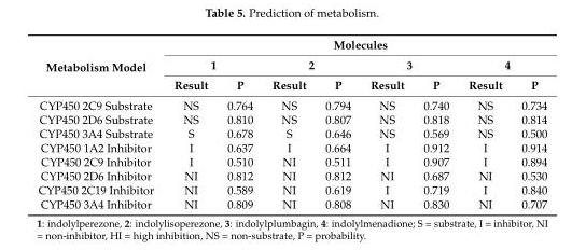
<table><thead><tr><td rowspan="3">Metabolism Model</td><td colspan="8">Molecules</td></tr><tr><td colspan="2">1</td><td colspan="2">2</td><td colspan="2">3</td><td colspan="2">4</td></tr><tr><td>Result</td><td>P</td><td>Result</td><td>P</td><td>Result</td><td>P</td><td>Result</td><td>P</td></tr></thead><tbody><tr><td>CYP450 2C9 Substrate</td><td>NS</td><td>0.764</td><td>NS</td><td>0.794</td><td>NS</td><td>0.740</td><td>NS</td><td>0.734</td></tr><tr><td>CYP450 2D6 Substrate</td><td>NS</td><td>0.810</td><td>NS</td><td>0.807</td><td>NS</td><td>0.818</td><td>NS</td><td>0.814</td></tr><tr><td>CYP450 3A4 Substrate</td><td>S</td><td>0.678</td><td>S</td><td>0.646</td><td>NS</td><td>0.569</td><td>NS</td><td>0.500</td></tr><tr><td>CYP450 1A2 Inhibitor</td><td>I</td><td>0.637</td><td>I</td><td>0.664</td><td>I</td><td>0.912</td><td>I</td><td>0.914</td></tr><tr><td>CYP450 2C9 Inhibitor</td><td>I</td><td>0.510</td><td>NI</td><td>0.511</td><td>I</td><td>0.907</td><td>I</td><td>0.894</td></tr><tr><td>CYP450 2D6 Inhibitor</td><td>NI</td><td>0.812</td><td>NI</td><td>0.812</td><td>NI</td><td>0.687</td><td>NI</td><td>0.530</td></tr><tr><td>CYP450 2C19 Inhibitor</td><td>NI</td><td>0.589</td><td>NI</td><td>0.619</td><td>I</td><td>0.719</td><td>I</td><td>0.840</td></tr><tr><td>CYP450 3A4 Inhibitor</td><td>NI</td><td>0.809</td><td>NI</td><td>0.808</td><td>NI</td><td>0.830</td><td>NI</td><td>0.707</td></tr></tbody></table>